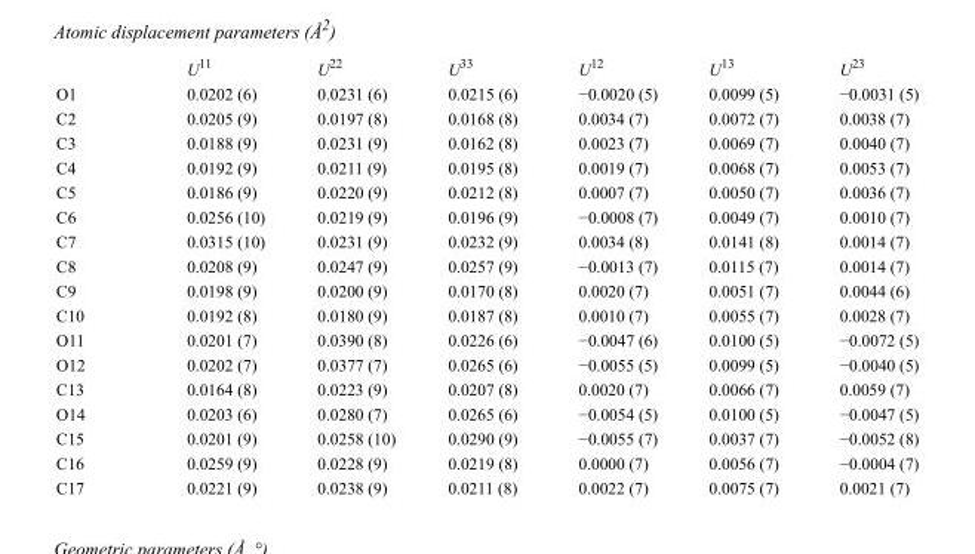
<table><thead><tr><td></td><td>U<sup>11</sup></td><td>U<sup>22</sup></td><td>U<sup>33</sup></td><td>U<sup>12</sup></td><td>U<sup>13</sup></td><td>U<sup>23</sup></td></tr></thead><tbody><tr><td>O1</td><td>0.0202 (6)</td><td>0.0231 (6)</td><td>0.0215 (6)</td><td>−0.0020 (5)</td><td>0.0099 (5)</td><td>−0.0031 (5)</td></tr><tr><td>C2</td><td>0.0205 (9)</td><td>0.0197 (8)</td><td>0.0168 (8)</td><td>0.0034 (7)</td><td>0.0072 (7)</td><td>0.0038 (7)</td></tr><tr><td>C3</td><td>0.0188 (9)</td><td>0.0231 (9)</td><td>0.0162 (8)</td><td>0.0023 (7)</td><td>0.0069 (7)</td><td>0.0040 (7)</td></tr><tr><td>C4</td><td>0.0192 (9)</td><td>0.0211 (9)</td><td>0.0195 (8)</td><td>0.0019 (7)</td><td>0.0068 (7)</td><td>0.0053 (7)</td></tr><tr><td>C5</td><td>0.0186 (9)</td><td>0.0220 (9)</td><td>0.0212 (8)</td><td>0.0007 (7)</td><td>0.0050 (7)</td><td>0.0036 (7)</td></tr><tr><td>C6</td><td>0.0256 (10)</td><td>0.0219 (9)</td><td>0.0196 (9)</td><td>−0.0008 (7)</td><td>0.0049 (7)</td><td>0.0010 (7)</td></tr><tr><td>C7</td><td>0.0315 (10)</td><td>0.0231 (9)</td><td>0.0232 (9)</td><td>0.0034 (8)</td><td>0.0141 (8)</td><td>0.0014 (7)</td></tr><tr><td>C8</td><td>0.0208 (9)</td><td>0.0247 (9)</td><td>0.0257 (9)</td><td>−0.0013 (7)</td><td>0.0115 (7)</td><td>0.0014 (7)</td></tr><tr><td>C9</td><td>0.0198 (9)</td><td>0.0200 (9)</td><td>0.0170 (8)</td><td>0.0020 (7)</td><td>0.0051 (7)</td><td>0.0044 (6)</td></tr><tr><td>C10</td><td>0.0192 (8)</td><td>0.0180 (9)</td><td>0.0187 (8)</td><td>0.0010 (7)</td><td>0.0055 (7)</td><td>0.0028 (7)</td></tr><tr><td>O11</td><td>0.0201 (7)</td><td>0.0390 (8)</td><td>0.0226 (6)</td><td>−0.0047 (6)</td><td>0.0100 (5)</td><td>−0.0072 (5)</td></tr><tr><td>O12</td><td>0.0202 (7)</td><td>0.0377 (7)</td><td>0.0265 (6)</td><td>−0.0055 (5)</td><td>0.0099 (5)</td><td>−0.0040 (5)</td></tr><tr><td>C13</td><td>0.0164 (8)</td><td>0.0223 (9)</td><td>0.0207 (8)</td><td>0.0020 (7)</td><td>0.0066 (7)</td><td>0.0059 (7)</td></tr><tr><td>O14</td><td>0.0203 (6)</td><td>0.0280 (7)</td><td>0.0265 (6)</td><td>−0.0054 (5)</td><td>0.0100 (5)</td><td>−0.0047 (5)</td></tr><tr><td>C15</td><td>0.0201 (9)</td><td>0.0258 (10)</td><td>0.0290 (9)</td><td>−0.0055 (7)</td><td>0.0037 (7)</td><td>−0.0052 (8)</td></tr><tr><td>C16</td><td>0.0259 (9)</td><td>0.0228 (9)</td><td>0.0219 (8)</td><td>0.0000 (7)</td><td>0.0056 (7)</td><td>−0.0004 (7)</td></tr><tr><td>C17</td><td>0.0221 (9)</td><td>0.0238 (9)</td><td>0.0211 (8)</td><td>0.0022 (7)</td><td>0.0075 (7)</td><td>0.0021 (7)</td></tr></tbody></table>